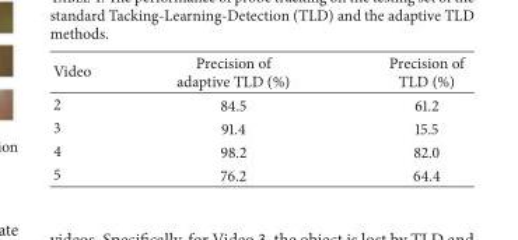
<table><thead><tr><td>Video</td><td>Precision of adaptive TLD (%)</td><td>Precision of TLD (%)</td></tr></thead><tbody><tr><td>2</td><td>84.5</td><td>61.2</td></tr><tr><td>3</td><td>91.4</td><td>15.5</td></tr><tr><td>4</td><td>98.2</td><td>82.0</td></tr><tr><td>5</td><td>76.2</td><td>64.4</td></tr></tbody></table>